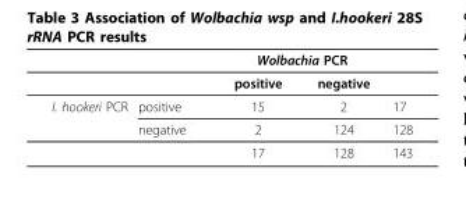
<table><thead><tr><td rowspan="2"></td><td rowspan="2"></td><td colspan="2">Wolbachia PCR</td><td rowspan="2"></td></tr><tr><td>positive</td><td>negative</td></tr></thead><tbody><tr><td rowspan="3">I. hookeri PCR</td><td>positive</td><td>15</td><td>2</td><td>17</td></tr><tr><td>negative</td><td>2</td><td>124</td><td>128</td></tr><tr><td></td><td>17</td><td>128</td><td>143</td></tr></tbody></table>